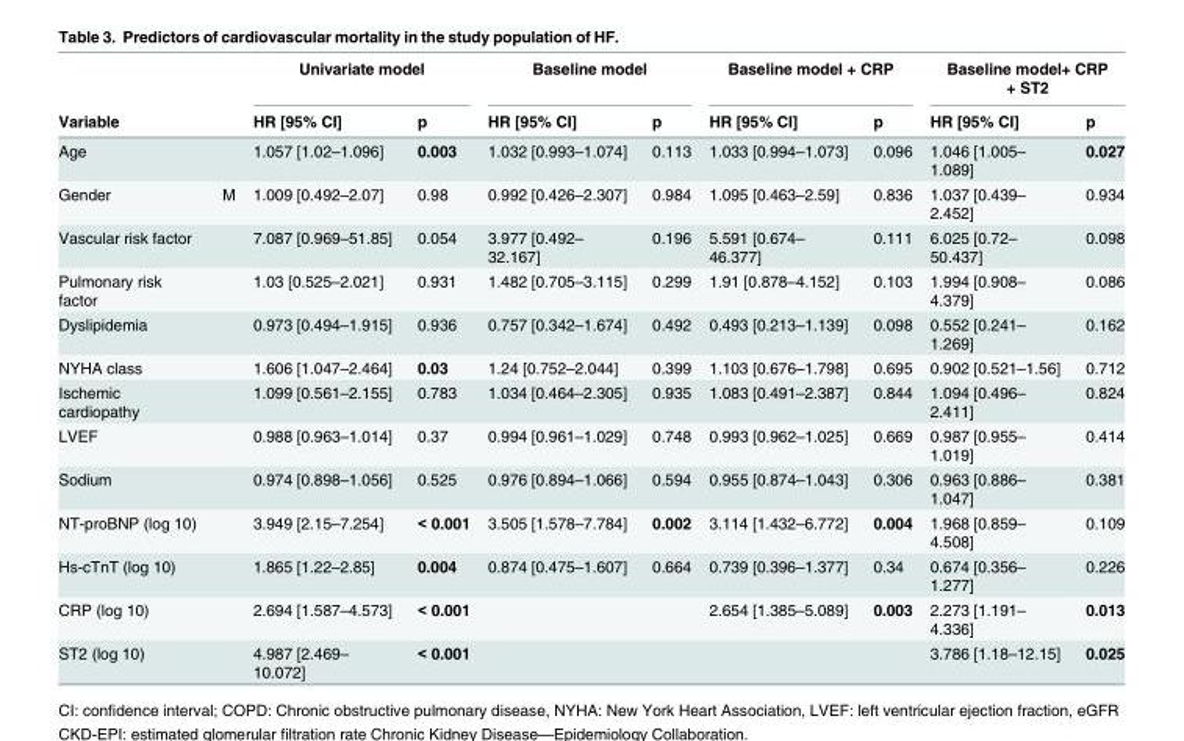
<table><thead><tr><td rowspan="2">Variable</td><td rowspan="2"></td><td colspan="2">Univariate model</td><td colspan="2">Baseline model</td><td colspan="2">Baseline model + CRP</td><td colspan="2">Baseline model+ CRP + ST2</td></tr><tr><td>HR [95% CI]</td><td>p</td><td>HR [95% CI]</td><td>p</td><td>HR [95% CI]</td><td>p</td><td>HR [95% CI]</td><td>p</td></tr></thead><tbody><tr><td>Age</td><td></td><td>1.057 [1.02–1.096]</td><td>0.003</td><td>1.032 [0.993–1.074]</td><td>0.113</td><td>1.033 [0.994–1.073]</td><td>0.096</td><td>1.046 [1.005– 1.089]</td><td>0.027</td></tr><tr><td>Gender</td><td>M</td><td>1.009 [0.492–2.07]</td><td>0.98</td><td>0.992 [0.426–2.307]</td><td>0.984</td><td>1.095 [0.463–2.59]</td><td>0.836</td><td>1.037 [0.439– 2.452]</td><td>0.934</td></tr><tr><td>Vascular risk factor</td><td></td><td>7.087 [0.969–51.85]</td><td>0.054</td><td>3.977 [0.492– 32.167]</td><td>0.196</td><td>5.591 [0.674– 46.377]</td><td>0.111</td><td>6.025 [0.72– 50.437]</td><td>0.098</td></tr><tr><td>Pulmonary risk factor</td><td></td><td>1.03 [0.525–2.021]</td><td>0.931</td><td>1.482 [0.705–3.115]</td><td>0.299</td><td>1.91 [0.878–4.152]</td><td>0.103</td><td>1.994 [0.908– 4.379]</td><td>0.086</td></tr><tr><td>Dyslipidemia</td><td></td><td>0.973 [0.494–1.915]</td><td>0.936</td><td>0.757 [0.342–1.674]</td><td>0.492</td><td>0.493 [0.213–1.139]</td><td>0.098</td><td>0.552 [0.241– 1.269]</td><td>0.162</td></tr><tr><td>NYHA class</td><td></td><td>1.606 [1.047–2.464]</td><td>0.03</td><td>1.24 [0.752–2.044]</td><td>0.399</td><td>1.103 [0.676–1.798]</td><td>0.695</td><td>0.902 [0.521–1.56]</td><td>0.712</td></tr><tr><td>Ischemic cardiopathy</td><td></td><td>1.099 [0.561–2.155]</td><td>0.783</td><td>1.034 [0.464–2.305]</td><td>0.935</td><td>1.083 [0.491–2.387]</td><td>0.844</td><td>1.094 [0.496– 2.411]</td><td>0.824</td></tr><tr><td>LVEF</td><td></td><td>0.988 [0.963–1.014]</td><td>0.37</td><td>0.994 [0.961–1.029]</td><td>0.748</td><td>0.993 [0.962–1.025]</td><td>0.669</td><td>0.987 [0.955– 1.019]</td><td>0.414</td></tr><tr><td>Sodium</td><td></td><td>0.974 [0.898–1.056]</td><td>0.525</td><td>0.976 [0.894–1.066]</td><td>0.594</td><td>0.955 [0.874–1.043]</td><td>0.306</td><td>0.963 [0.886– 1.047]</td><td>0.381</td></tr><tr><td>NT-proBNP (log 10)</td><td></td><td>3.949 [2.15–7.254]</td><td>&lt; 0.001</td><td>3.505 [1.578–7.784]</td><td>0.002</td><td>3.114 [1.432–6.772]</td><td>0.004</td><td>1.968 [0.859– 4.508]</td><td>0.109</td></tr><tr><td>Hs-cTnT (log 10)</td><td></td><td>1.865 [1.22–2.85]</td><td>0.004</td><td>0.874 [0.475–1.607]</td><td>0.664</td><td>0.739 [0.396–1.377]</td><td>0.34</td><td>0.674 [0.356– 1.277]</td><td>0.226</td></tr><tr><td>CRP (log 10)</td><td></td><td>2.694 [1.587–4.573]</td><td>&lt; 0.001</td><td></td><td></td><td>2.654 [1.385–5.089]</td><td>0.003</td><td>2.273 [1.191– 4.336]</td><td>0.013</td></tr><tr><td>ST2 (log 10)</td><td></td><td>4.987 [2.469– 10.072]</td><td>&lt; 0.001</td><td></td><td></td><td></td><td></td><td>3.786 [1.18–12.15]</td><td>0.025</td></tr></tbody></table>